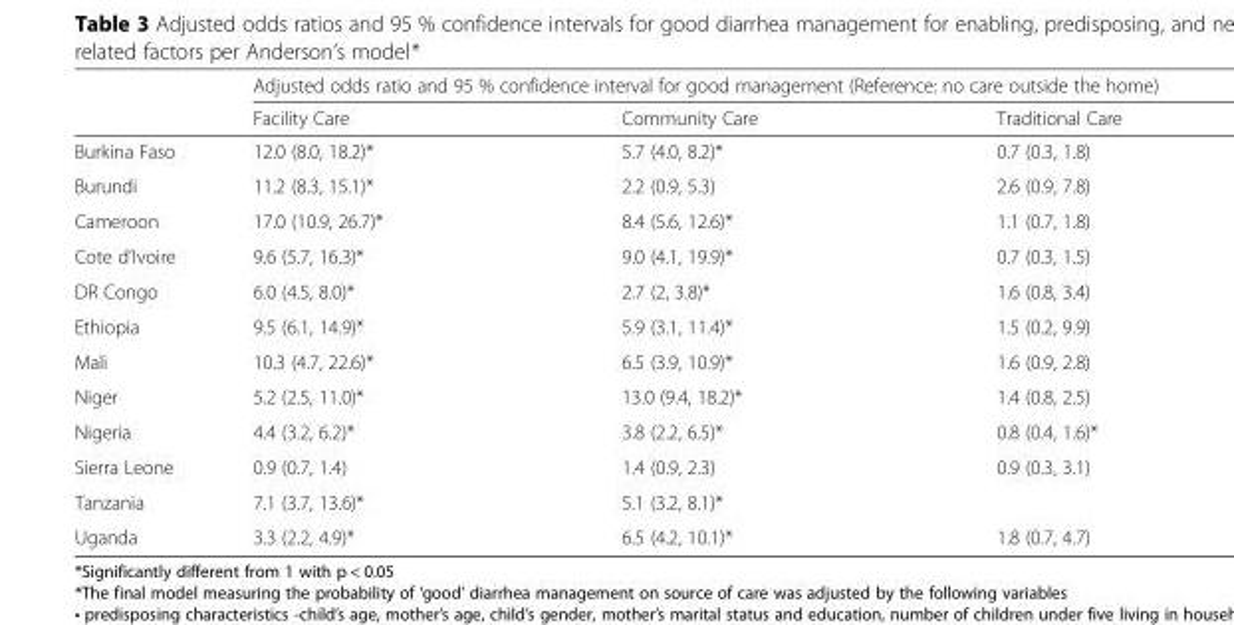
<table><thead><tr><td rowspan="2"></td><td colspan="3">Adjusted odds ratio and 95 % confidence interval for good management (Reference: no care outside the home)</td></tr><tr><td>Facility Care</td><td>Community Care</td><td>Traditional Care</td></tr></thead><tbody><tr><td>Burkina Faso</td><td>12.0 (8.0, 18.2)*</td><td>5.7 (4.0, 8.2)*</td><td>0.7 (0.3, 1.8)</td></tr><tr><td>Burundi</td><td>11.2 (8.3, 15.1)*</td><td>2.2 (0.9, 5.3)</td><td>2.6 (0.9, 7.8)</td></tr><tr><td>Cameroon</td><td>17.0 (10.9, 26.7)*</td><td>8.4 (5.6, 12.6)*</td><td>1.1 (0.7, 1.8)</td></tr><tr><td>Cote d’Ivoire</td><td>9.6 (5.7, 16.3)*</td><td>9.0 (4.1, 19.9)*</td><td>0.7 (0.3, 1.5)</td></tr><tr><td>DR Congo</td><td>6.0 (4.5, 8.0)*</td><td>2.7 (2, 3.8)*</td><td>1.6 (0.8, 3.4)</td></tr><tr><td>Ethiopia</td><td>9.5 (6.1, 14.9)*</td><td>5.9 (3.1, 11.4)*</td><td>1.5 (0.2, 9.9)</td></tr><tr><td>Mali</td><td>10.3 (4.7, 22.6)*</td><td>6.5 (3.9, 10.9)*</td><td>1.6 (0.9, 2.8)</td></tr><tr><td>Niger</td><td>5.2 (2.5, 11.0)*</td><td>13.0 (9.4, 18.2)*</td><td>1.4 (0.8, 2.5)</td></tr><tr><td>Nigeria</td><td>4.4 (3.2, 6.2)*</td><td>3.8 (2.2, 6.5)*</td><td>0.8 (0.4, 1.6)*</td></tr><tr><td>Sierra Leone</td><td>0.9 (0.7, 1.4)</td><td>1.4 (0.9, 2.3)</td><td>0.9 (0.3, 3.1)</td></tr><tr><td>Tanzania</td><td>7.1 (3.7, 13.6)*</td><td>5.1 (3.2, 8.1)*</td><td></td></tr><tr><td>Uganda</td><td>3.3 (2.2, 4.9)*</td><td>6.5 (4.2, 10.1)*</td><td>1.8 (0.7, 4.7)</td></tr></tbody></table>